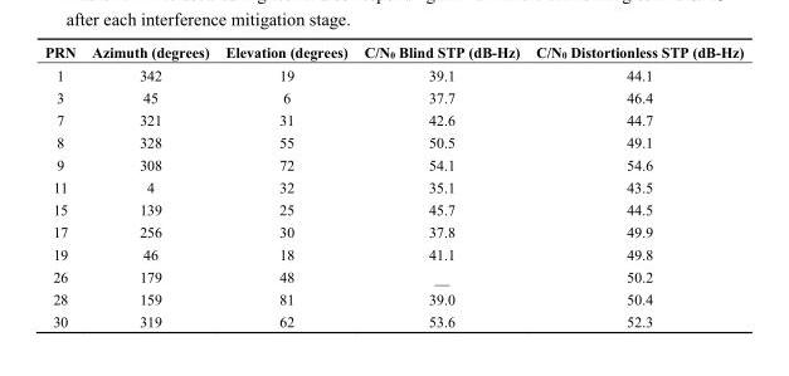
<table><thead><tr><td>PRN</td><td>Azimuth (degrees)</td><td>Elevation (degrees)</td><td>C/N<sub>0</sub> Blind STP (dB-Hz)</td><td>C/N<sub>0</sub> Distortionless STP (dB-Hz)</td></tr></thead><tbody><tr><td>1</td><td>342</td><td>19</td><td>39.1</td><td>44.1</td></tr><tr><td>3</td><td>45</td><td>6</td><td>37.7</td><td>46.4</td></tr><tr><td>7</td><td>321</td><td>31</td><td>42.6</td><td>44.7</td></tr><tr><td>8</td><td>328</td><td>55</td><td>50.5</td><td>49.1</td></tr><tr><td>9</td><td>308</td><td>72</td><td>54.1</td><td>54.6</td></tr><tr><td>11</td><td>4</td><td>32</td><td>35.1</td><td>43.5</td></tr><tr><td>15</td><td>139</td><td>25</td><td>45.7</td><td>44.5</td></tr><tr><td>17</td><td>256</td><td>30</td><td>37.8</td><td>49.9</td></tr><tr><td>19</td><td>46</td><td>18</td><td>41.1</td><td>49.8</td></tr><tr><td>26</td><td>179</td><td>48</td><td>__</td><td>50.2</td></tr><tr><td>28</td><td>159</td><td>81</td><td>39.0</td><td>50.4</td></tr><tr><td>30</td><td>319</td><td>62</td><td>53.6</td><td>52.3</td></tr></tbody></table>